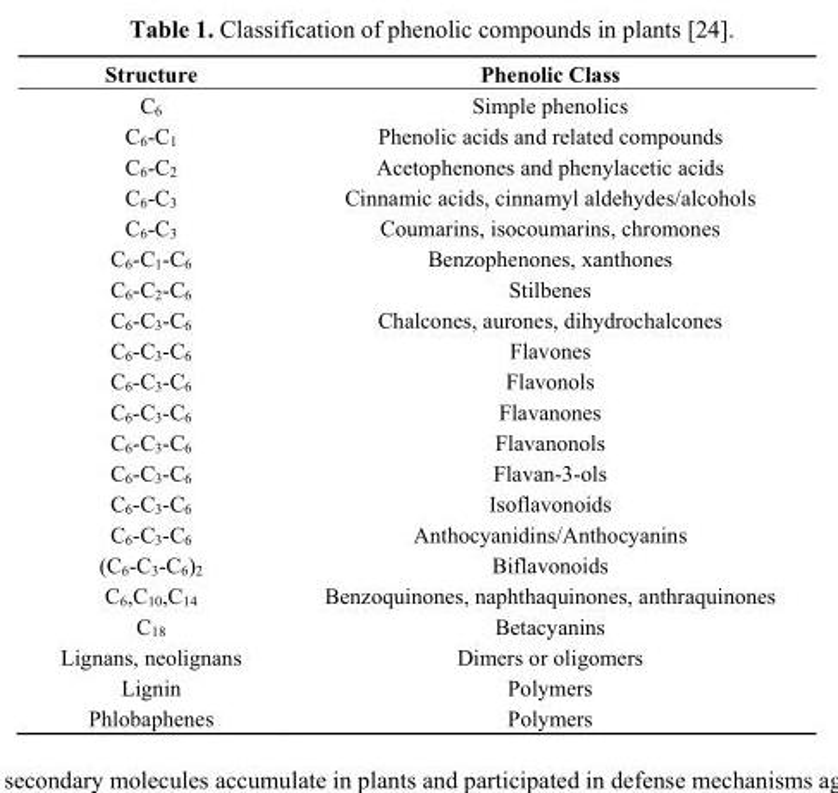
<table><thead><tr><td>Structure</td><td>Phenolic Class</td></tr></thead><tbody><tr><td>C<sub>6</sub></td><td>Simple phenolics</td></tr><tr><td>C<sub>6</sub>-C<sub>1</sub></td><td>Phenolic acids and related compounds</td></tr><tr><td>C<sub>6</sub>-C<sub>2</sub></td><td>Acetophenones and phenylacetic acids</td></tr><tr><td>C<sub>6</sub>-C<sub>3</sub></td><td>Cinnamic acids, cinnamyl aldehydes/alcohols</td></tr><tr><td>C<sub>6</sub>-C<sub>3</sub></td><td>Coumarins, isocoumarins, chromones</td></tr><tr><td>C<sub>6</sub>-C<sub>1</sub>-C<sub>6</sub></td><td>Benzophenones, xanthones</td></tr><tr><td>C<sub>6</sub>-C<sub>2</sub>-C<sub>6</sub></td><td>Stilbenes</td></tr><tr><td>C<sub>6</sub>-C<sub>3</sub>-C<sub>6</sub></td><td>Chalcones, aurones, dihydrochalcones</td></tr><tr><td>C<sub>6</sub>-C<sub>3</sub>-C<sub>6</sub></td><td>Flavones</td></tr><tr><td>C<sub>6</sub>-C<sub>3</sub>-C<sub>6</sub></td><td>Flavonols</td></tr><tr><td>C<sub>6</sub>-C<sub>3</sub>-C<sub>6</sub></td><td>Flavanones</td></tr><tr><td>C<sub>6</sub>-C<sub>3</sub>-C<sub>6</sub></td><td>Flavanonols</td></tr><tr><td>C<sub>6</sub>-C<sub>3</sub>-C<sub>6</sub></td><td>Flavan-3-ols</td></tr><tr><td>C<sub>6</sub>-C<sub>3</sub>-C<sub>6</sub></td><td>Isoflavonoids</td></tr><tr><td>C<sub>6</sub>-C<sub>3</sub>-C<sub>6</sub></td><td>Anthocyanidins/Anthocyanins</td></tr><tr><td>(C<sub>6</sub>-C<sub>3</sub>-C<sub>6</sub>)<sub>2</sub></td><td>Biflavonoids</td></tr><tr><td>C<sub>6</sub>,C<sub>10</sub>,C<sub>14</sub></td><td>Benzoquinones, naphthaquinones, anthraquinones</td></tr><tr><td>C<sub>18</sub></td><td>Betacyanins</td></tr><tr><td>Lignans, neolignans</td><td>Dimers or oligomers</td></tr><tr><td>Lignin</td><td>Polymers</td></tr><tr><td>Phlobaphenes</td><td>Polymers</td></tr></tbody></table>